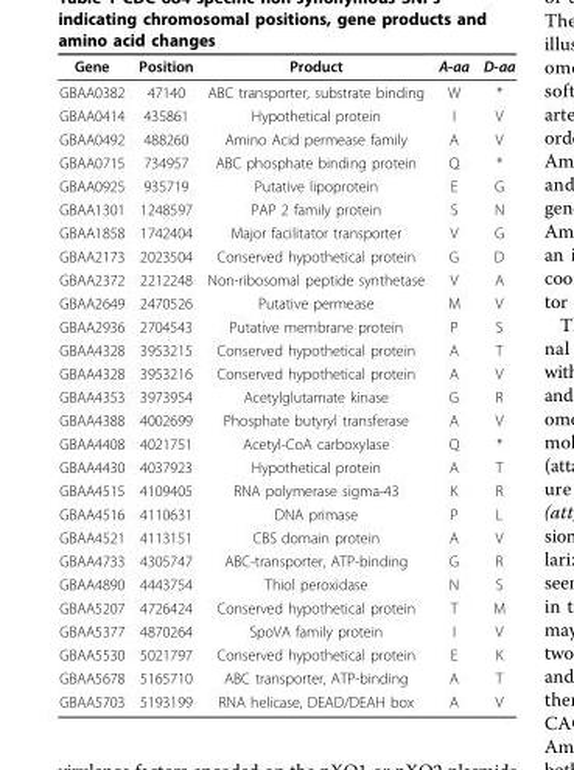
<table><thead><tr><td>Gene</td><td>Position</td><td>Product</td><td>A-aa</td><td>D-aa</td></tr></thead><tbody><tr><td>GBAA0382</td><td>47140</td><td>ABC transporter, substrate binding</td><td>W</td><td>*</td></tr><tr><td>GBAA0414</td><td>435861</td><td>Hypothetical protein</td><td>I</td><td>V</td></tr><tr><td>GBAA0492</td><td>488260</td><td>Amino Acid permease family</td><td>A</td><td>V</td></tr><tr><td>GBAA0715</td><td>734957</td><td>ABC phosphate binding protein</td><td>Q</td><td>*</td></tr><tr><td>GBAA0925</td><td>935719</td><td>Putative lipoprotein</td><td>E</td><td>G</td></tr><tr><td>GBAA1301</td><td>1248597</td><td>PAP 2 family protein</td><td>S</td><td>N</td></tr><tr><td>GBAA1858</td><td>1742404</td><td>Major facilitator transporter</td><td>V</td><td>G</td></tr><tr><td>GBAA2173</td><td>2023504</td><td>Conserved hypothetical protein</td><td>G</td><td>D</td></tr><tr><td>GBAA2372</td><td>2212248</td><td>Non-ribosomal peptide synthetase</td><td>V</td><td>A</td></tr><tr><td>GBAA2649</td><td>2470526</td><td>Putative permease</td><td>M</td><td>V</td></tr><tr><td>GBAA2936</td><td>2704543</td><td>Putative membrane protein</td><td>P</td><td>S</td></tr><tr><td>GBAA4328</td><td>3953215</td><td>Conserved hypothetical protein</td><td>A</td><td>T</td></tr><tr><td>GBAA4328</td><td>3953216</td><td>Conserved hypothetical protein</td><td>A</td><td>V</td></tr><tr><td>GBAA4353</td><td>3973954</td><td>Acetylglutamate kinase</td><td>G</td><td>R</td></tr><tr><td>GBAA4388</td><td>4002699</td><td>Phosphate butyryl transferase</td><td>A</td><td>V</td></tr><tr><td>GBAA4408</td><td>4021751</td><td>Acetyl-CoA carboxylase</td><td>Q</td><td>*</td></tr><tr><td>GBAA4430</td><td>4037923</td><td>Hypothetical protein</td><td>A</td><td>T</td></tr><tr><td>GBAA4515</td><td>4109405</td><td>RNA polymerase sigma-43</td><td>K</td><td>R</td></tr><tr><td>GBAA4516</td><td>4110631</td><td>DNA primase</td><td>P</td><td>L</td></tr><tr><td>GBAA4521</td><td>4113151</td><td>CBS domain protein</td><td>A</td><td>V</td></tr><tr><td>GBAA4733</td><td>4305747</td><td>ABC-transporter, ATP-binding</td><td>G</td><td>R</td></tr><tr><td>GBAA4890</td><td>4443754</td><td>Thiol peroxidase</td><td>N</td><td>S</td></tr><tr><td>GBAA5207</td><td>4726424</td><td>Conserved hypothetical protein</td><td>T</td><td>M</td></tr><tr><td>GBAA5377</td><td>4870264</td><td>SpoVA family protein</td><td>I</td><td>V</td></tr><tr><td>GBAA5530</td><td>5021797</td><td>Conserved hypothetical protein</td><td>E</td><td>K</td></tr><tr><td>GBAA5678</td><td>5165710</td><td>ABC transporter, ATP-binding</td><td>A</td><td>T</td></tr><tr><td>GBAA5703</td><td>5193199</td><td>RNA helicase, DEAD/DEAH box</td><td>A</td><td>V</td></tr></tbody></table>